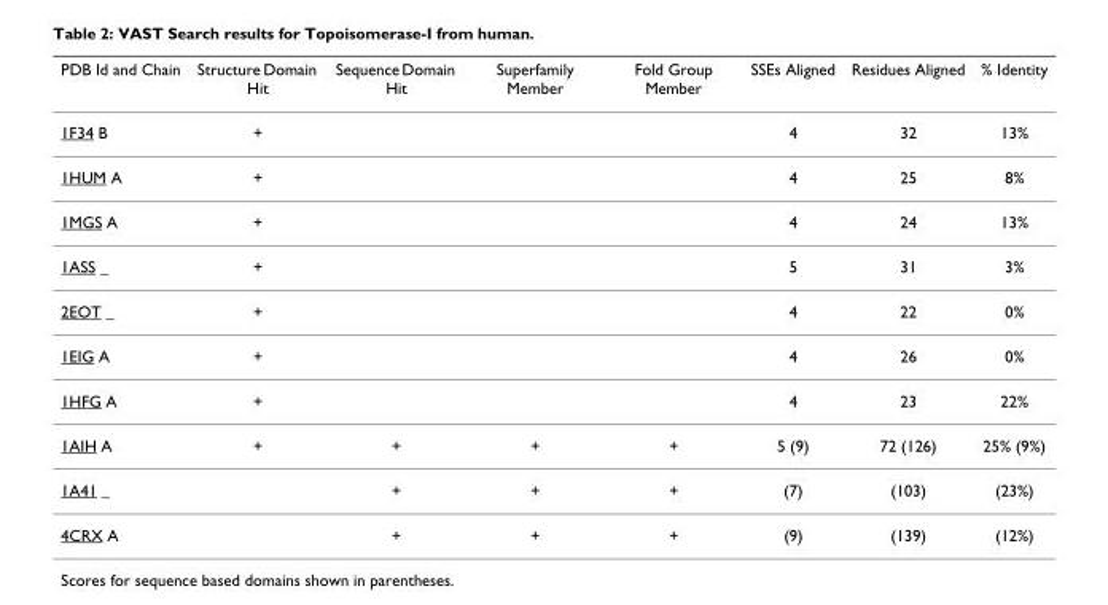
<table><thead><tr><td>PDB Id and Chain</td><td>Structure Domain Hit</td><td>Sequence Domain Hit</td><td>Superfamily Member</td><td>Fold Group Member</td><td>SSEs Aligned</td><td>Residues Aligned</td><td>% Identity</td></tr></thead><tbody><tr><td>1F34 B</td><td>+</td><td></td><td></td><td></td><td>4</td><td>32</td><td>13%</td></tr><tr><td>1HUM A</td><td>+</td><td></td><td></td><td></td><td>4</td><td>25</td><td>8%</td></tr><tr><td>1MGS A</td><td>+</td><td></td><td></td><td></td><td>4</td><td>24</td><td>13%</td></tr><tr><td>1ASS _</td><td>+</td><td></td><td></td><td></td><td>5</td><td>31</td><td>3%</td></tr><tr><td>2EOT _</td><td>+</td><td></td><td></td><td></td><td>4</td><td>22</td><td>0%</td></tr><tr><td>1EIG A</td><td>+</td><td></td><td></td><td></td><td>4</td><td>26</td><td>0%</td></tr><tr><td>1HFG A</td><td>+</td><td></td><td></td><td></td><td>4</td><td>23</td><td>22%</td></tr><tr><td>1AIH A</td><td>+</td><td>+</td><td>+</td><td>+</td><td>5 (9)</td><td>72 (126)</td><td>25% (9%)</td></tr><tr><td>1A41 _</td><td></td><td>+</td><td>+</td><td>+</td><td>(7)</td><td>(103)</td><td>(23%)</td></tr><tr><td>4CRX A</td><td></td><td>+</td><td>+</td><td>+</td><td>(9)</td><td>(139)</td><td>(12%)</td></tr></tbody></table>